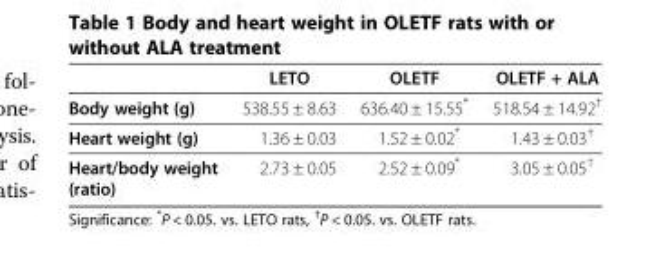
<table><thead><tr><td></td><td>LETO</td><td>OLETF</td><td>OLETF + ALA</td></tr></thead><tbody><tr><td>Body weight (g)</td><td>538.55 ± 8.63</td><td>636.40 ± 15.55*</td><td>518.54 ± 14.92<sup>†</sup></td></tr><tr><td>Heart weight (g)</td><td>1.36 ± 0.03</td><td>1.52 ± 0.02*</td><td>1.43 ± 0.03<sup>†</sup></td></tr><tr><td>Heart/body weight (ratio)</td><td>2.73 ± 0.05</td><td>2.52 ± 0.09*</td><td>3.05 ± 0.05<sup>†</sup></td></tr></tbody></table>